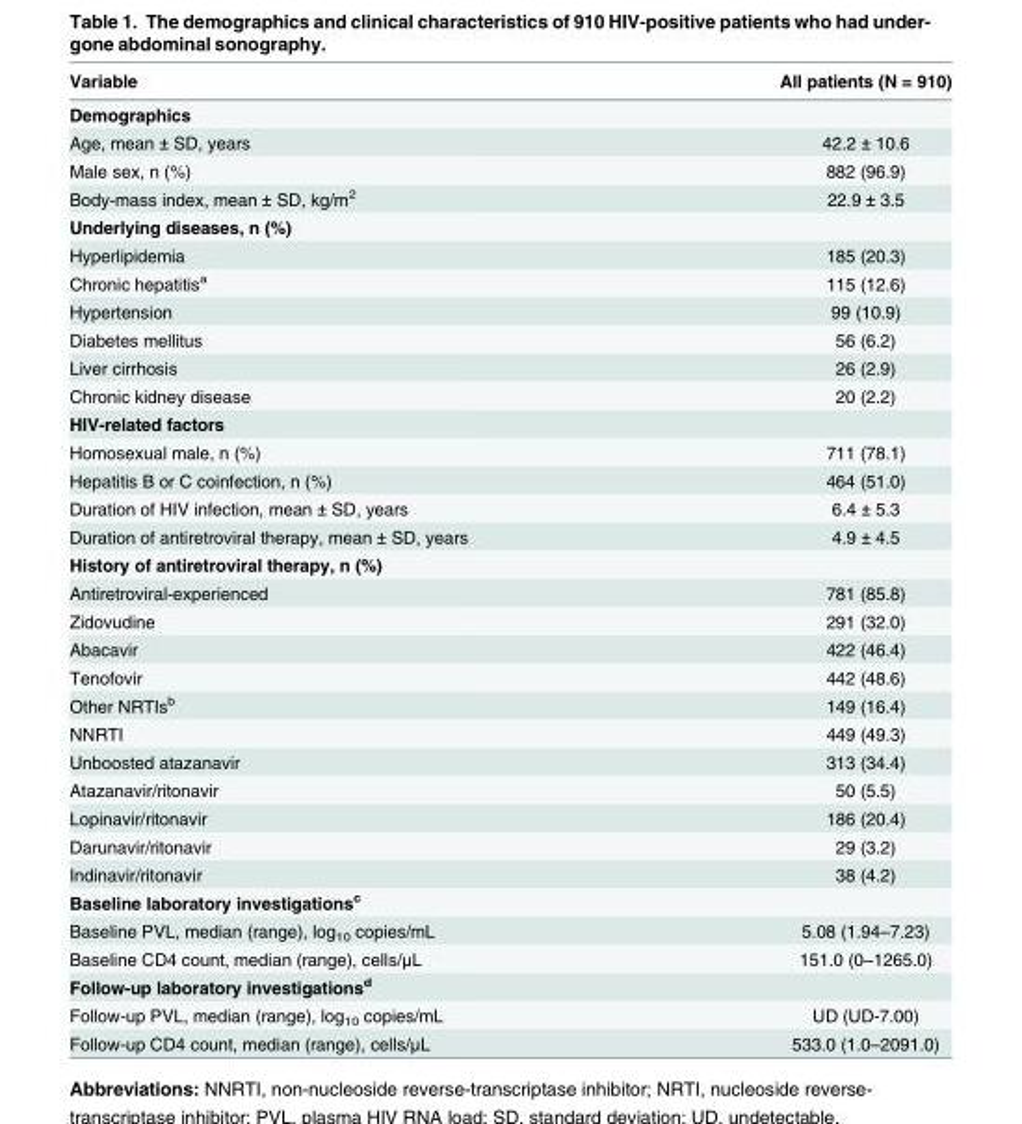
<table><thead><tr><td>Variable</td><td>All patients (N = 910)</td></tr></thead><tbody><tr><td colspan="2">Demographics</td></tr><tr><td>Age, mean ± SD, years</td><td>42.2 ± 10.6</td></tr><tr><td>Male sex, n (%)</td><td>882 (96.9)</td></tr><tr><td>Body-mass index, mean ± SD, kg/m<sup>2</sup></td><td>22.9 ± 3.5</td></tr><tr><td colspan="2">Underlying diseases, n (%)</td></tr><tr><td>Hyperlipidemia</td><td>185 (20.3)</td></tr><tr><td>Chronic hepatitis<sup>a</sup></td><td>115 (12.6)</td></tr><tr><td>Hypertension</td><td>99 (10.9)</td></tr><tr><td>Diabetes mellitus</td><td>56 (6.2)</td></tr><tr><td>Liver cirrhosis</td><td>26 (2.9)</td></tr><tr><td>Chronic kidney disease</td><td>20 (2.2)</td></tr><tr><td colspan="2">HIV-related factors</td></tr><tr><td>Homosexual male, n (%)</td><td>711 (78.1)</td></tr><tr><td>Hepatitis B or C coinfection, n (%)</td><td>464 (51.0)</td></tr><tr><td>Duration of HIV infection, mean ± SD, years</td><td>6.4 ± 5.3</td></tr><tr><td>Duration of antiretroviral therapy, mean ± SD, years</td><td>4.9 ± 4.5</td></tr><tr><td colspan="2">History of antiretroviral therapy, n (%)</td></tr><tr><td>Antiretroviral-experienced</td><td>781 (85.8)</td></tr><tr><td>Zidovudine</td><td>291 (32.0)</td></tr><tr><td>Abacavir</td><td>422 (46.4)</td></tr><tr><td>Tenofovir</td><td>442 (48.6)</td></tr><tr><td>Other NRTIs<sup>b</sup></td><td>149 (16.4)</td></tr><tr><td>NNRTI</td><td>449 (49.3)</td></tr><tr><td>Unboosted atazanavir</td><td>313 (34.4)</td></tr><tr><td>Atazanavir/ritonavir</td><td>50 (5.5)</td></tr><tr><td>Lopinavir/ritonavir</td><td>186 (20.4)</td></tr><tr><td>Darunavir/ritonavir</td><td>29 (3.2)</td></tr><tr><td>Indinavir/ritonavir</td><td>38 (4.2)</td></tr><tr><td colspan="2">Baseline laboratory investigations<sup>c</sup></td></tr><tr><td>Baseline PVL, median (range), log<sub>10</sub> copies/mL</td><td>5.08 (1.94–7.23)</td></tr><tr><td>Baseline CD4 count, median (range), cells/μL</td><td>151.0 (0–1265.0)</td></tr><tr><td colspan="2">Follow-up laboratory investigations<sup>d</sup></td></tr><tr><td>Follow-up PVL, median (range), log<sub>10</sub> copies/mL</td><td>UD (UD-7.00)</td></tr><tr><td>Follow-up CD4 count, median (range), cells/μL</td><td>533.0 (1.0–2091.0)</td></tr></tbody></table>